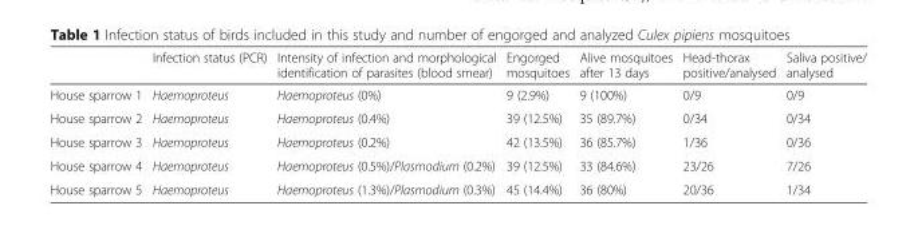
<table><thead><tr><td></td><td>Infection status (PCR)</td><td>Intensity of infection and morphological identification of parasites (blood smear)</td><td>Engorged mosquitoes</td><td>Alive mosquitoes after 13 days</td><td>Head-thorax positive/analysed</td><td>Saliva positive/ analysed</td></tr></thead><tbody><tr><td>House sparrow 1</td><td>Haemoproteus</td><td>Haemoproteus (0%)</td><td>9 (2.9%)</td><td>9 (100%)</td><td>0/9</td><td>0/9</td></tr><tr><td>House sparrow 2</td><td>Haemoproteus</td><td>Haemoproteus (0.4%)</td><td>39 (12.5%)</td><td>35 (89.7%)</td><td>0/34</td><td>0/34</td></tr><tr><td>House sparrow 3</td><td>Haemoproteus</td><td>Haemoproteus (0.2%)</td><td>42 (13.5%)</td><td>36 (85.7%)</td><td>1/36</td><td>0/36</td></tr><tr><td>House sparrow 4</td><td>Haemoproteus</td><td>Haemoproteus (0.5%)/Plasmodium (0.2%)</td><td>39 (12.5%)</td><td>33 (84.6%)</td><td>23/26</td><td>7/26</td></tr><tr><td>House sparrow 5</td><td>Haemoproteus</td><td>Haemoproteus (1.3%)/Plasmodium (0.3%)</td><td>45 (14.4%)</td><td>36 (80%)</td><td>20/36</td><td>1/34</td></tr></tbody></table>